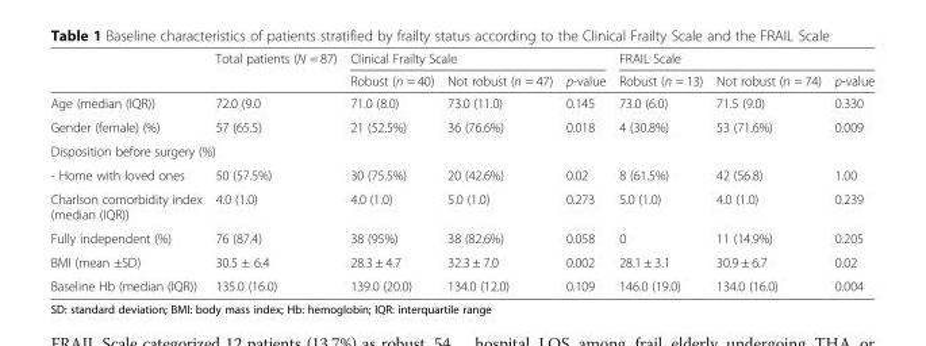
<table><thead><tr><td rowspan="2"></td><td rowspan="2">Total patients (N = 87)</td><td colspan="3">Clinical Frailty Scale</td><td colspan="3">FRAIL Scale</td></tr><tr><td>Robust (n = 40)</td><td>Not robust (n = 47)</td><td>p-value</td><td>Robust (n = 13)</td><td>Not robust (n = 74)</td><td>p-value</td></tr></thead><tbody><tr><td>Age (median (IQR))</td><td>72.0 (9.0</td><td>71.0 (8.0)</td><td>73.0 (11.0)</td><td>0.145</td><td>73.0 (6.0)</td><td>71.5 (9.0)</td><td>0.330</td></tr><tr><td>Gender (female) (%)</td><td>57 (65.5)</td><td>21 (52.5%)</td><td>36 (76.6%)</td><td>0.018</td><td>4 (30.8%)</td><td>53 (71.6%)</td><td>0.009</td></tr><tr><td colspan="8">Disposition before surgery (%)</td></tr><tr><td>- Home with loved ones</td><td>50 (57.5%)</td><td>30 (75.5%)</td><td>20 (42.6%)</td><td>0.02</td><td>8 (61.5%)</td><td>42 (56.8)</td><td>1.00</td></tr><tr><td>Charlson comorbidity index (median (IQR))</td><td>4.0 (1.0)</td><td>4.0 (1.0)</td><td>5.0 (1.0)</td><td>0.273</td><td>5.0 (1.0)</td><td>4.0 (1.0)</td><td>0.239</td></tr><tr><td>Fully independent (%)</td><td>76 (87.4)</td><td>38 (95%)</td><td>38 (82.6%)</td><td>0.058</td><td>0</td><td>11 (14.9%)</td><td>0.205</td></tr><tr><td>BMI (mean ±SD)</td><td>30.5 ± 6.4</td><td>28.3 ± 4.7</td><td>32.3 ± 7.0</td><td>0.002</td><td>28.1 ± 3.1</td><td>30.9 ± 6.7</td><td>0.02</td></tr><tr><td>Baseline Hb (median (IQR))</td><td>135.0 (16.0)</td><td>139.0 (20.0)</td><td>134.0 (12.0)</td><td>0.109</td><td>146.0 (19.0)</td><td>134.0 (16.0)</td><td>0.004</td></tr></tbody></table>